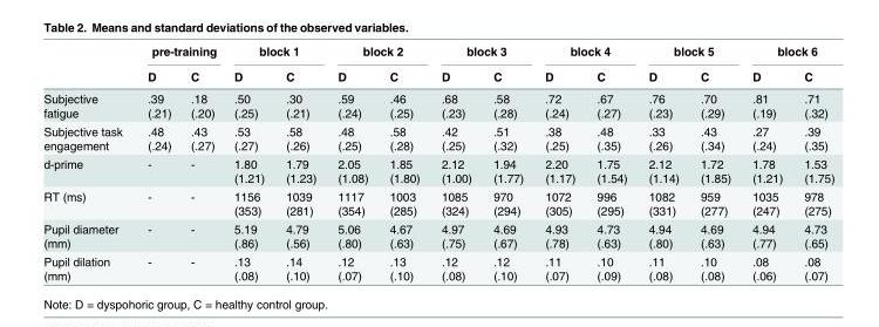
<table><thead><tr><td rowspan="2"></td><td colspan="2">pre-training</td><td colspan="2">block 1</td><td colspan="2">block 2</td><td colspan="2">block 3</td><td colspan="2">block 4</td><td colspan="2">block 5</td><td colspan="2">block 6</td></tr><tr><td>D</td><td>C</td><td>D</td><td>C</td><td>D</td><td>C</td><td>D</td><td>C</td><td>D</td><td>C</td><td>D</td><td>C</td><td>D</td><td>C</td></tr></thead><tbody><tr><td>Subjective fatigue</td><td>.39 (.21)</td><td>.18 (.20)</td><td>.50 (.25)</td><td>.30 (.21)</td><td>.59 (.24)</td><td>.46 (.25)</td><td>.68 (.23)</td><td>.58 (.28)</td><td>.72 (.24)</td><td>.67 (.27)</td><td>.76 (.23)</td><td>.70 (.29)</td><td>.81 (.19)</td><td>.71 (.32)</td></tr><tr><td>Subjective task engagement</td><td>.48 (.24)</td><td>.43 (.27)</td><td>.53 (.27)</td><td>.58 (.26)</td><td>.48 (.25)</td><td>.58 (.28)</td><td>.42 (.25)</td><td>.51 (.32)</td><td>.38 (.25)</td><td>.48 (.35)</td><td>.33 (.26)</td><td>.43 (.34)</td><td>.27 (.24)</td><td>.39 (.35)</td></tr><tr><td>d-prime</td><td>-</td><td>-</td><td>1.80 (1.21)</td><td>1.79 (1.23)</td><td>2.05 (1.08)</td><td>1.85 (1.80)</td><td>2.12 (1.00)</td><td>1.94 (1.77)</td><td>2.20 (1.17)</td><td>1.75 (1.54)</td><td>2.12 (1.14)</td><td>1.72 (1.85)</td><td>1.78 (1.21)</td><td>1.53 (1.75)</td></tr><tr><td>RT (ms)</td><td>-</td><td>-</td><td>1156 (353)</td><td>1039 (281)</td><td>1117 (354)</td><td>1003 (285)</td><td>1085 (324)</td><td>970 (294)</td><td>1072 (305)</td><td>996 (295)</td><td>1082 (331)</td><td>959 (277)</td><td>1035 (247)</td><td>978 (275)</td></tr><tr><td>Pupil diameter (mm)</td><td>-</td><td>-</td><td>5.19 (.86)</td><td>4.79 (.56)</td><td>5.06 (.80)</td><td>4.67 (.63)</td><td>4.97 (.75)</td><td>4.69 (.67)</td><td>4.93 (.78)</td><td>4.73 (.63)</td><td>4.94 (.80)</td><td>4.69 (.63)</td><td>4.94 (.77)</td><td>4.73 (.65)</td></tr><tr><td>Pupil dilation (mm)</td><td>-</td><td>-</td><td>.13 (.08)</td><td>.14 (.10)</td><td>.12 (.07)</td><td>.13 (.10)</td><td>.12 (.08)</td><td>.12 (.10)</td><td>.11 (.07)</td><td>.10 (.09)</td><td>.11 (.08)</td><td>.10 (.08)</td><td>.08 (.06)</td><td>.08 (.07)</td></tr></tbody></table>